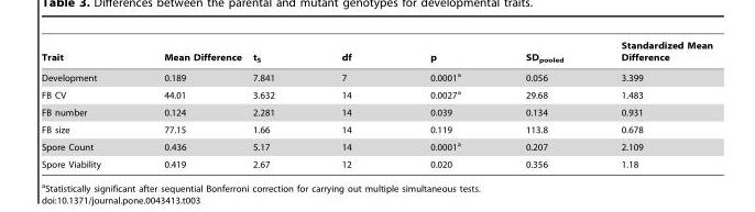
<table><thead><tr><td>Trait</td><td>Mean Difference</td><td>t<sub>S</sub></td><td>df</td><td>p</td><td>SD<sub>pooled</sub></td><td>Standardized Mean Difference</td></tr></thead><tbody><tr><td>Development</td><td>0.189</td><td>7.841</td><td>7</td><td>0.0001<sup>a</sup></td><td>0.056</td><td>3.399</td></tr><tr><td>FB CV</td><td>44.01</td><td>3.632</td><td>14</td><td>0.0027<sup>a</sup></td><td>29.68</td><td>1.483</td></tr><tr><td>FB number</td><td>0.124</td><td>2.281</td><td>14</td><td>0.039</td><td>0.134</td><td>0.931</td></tr><tr><td>FB size</td><td>77.15</td><td>1.66</td><td>14</td><td>0.119</td><td>113.8</td><td>0.678</td></tr><tr><td>Spore Count</td><td>0.436</td><td>5.17</td><td>14</td><td>0.0001<sup>a</sup></td><td>0.207</td><td>2.109</td></tr><tr><td>Spore Viability</td><td>0.419</td><td>2.67</td><td>12</td><td>0.020</td><td>0.356</td><td>1.18</td></tr></tbody></table>